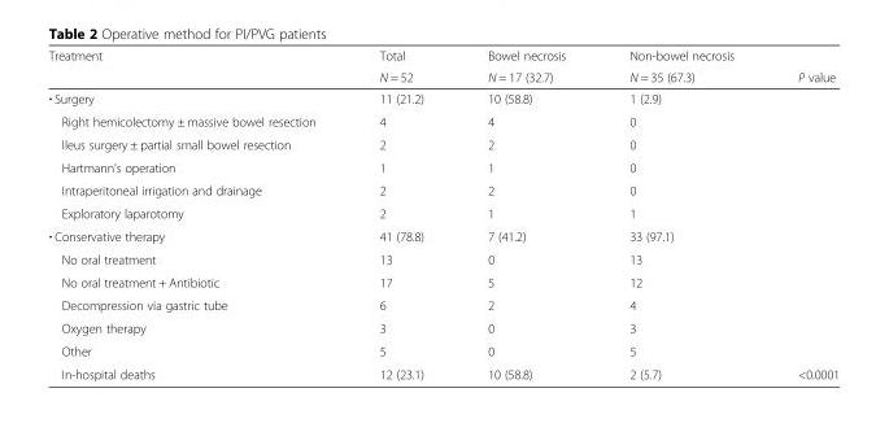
<table><thead><tr><td rowspan="2">Treatment</td><td rowspan="2">Total N = 52</td><td rowspan="2">Bowel necrosis N = 17 (32.7)</td><td rowspan="2">Non-bowel necrosis N = 35 (67.3)</td><td rowspan="2">P value</td></tr><tr></tr></thead><tbody><tr><td>∙ Surgery</td><td>11 (21.2)</td><td>10 (58.8)</td><td>1 (2.9)</td><td></td></tr><tr><td>Right hemicolectomy ± massive bowel resection</td><td>4</td><td>4</td><td>0</td><td></td></tr><tr><td>Ileus surgery ± partial small bowel resection</td><td>2</td><td>2</td><td>0</td><td></td></tr><tr><td>Hartmann’s operation</td><td>1</td><td>1</td><td>0</td><td></td></tr><tr><td>Intraperitoneal irrigation and drainage</td><td>2</td><td>2</td><td>0</td><td></td></tr><tr><td>Exploratory laparotomy</td><td>2</td><td>1</td><td>1</td><td></td></tr><tr><td>∙ Conservative therapy</td><td>41 (78.8)</td><td>7 (41.2)</td><td>33 (97.1)</td><td></td></tr><tr><td>No oral treatment</td><td>13</td><td>0</td><td>13</td><td></td></tr><tr><td>No oral treatment + Antibiotic</td><td>17</td><td>5</td><td>12</td><td></td></tr><tr><td>Decompression via gastric tube</td><td>6</td><td>2</td><td>4</td><td></td></tr><tr><td>Oxygen therapy</td><td>3</td><td>0</td><td>3</td><td></td></tr><tr><td>Other</td><td>5</td><td>0</td><td>5</td><td></td></tr><tr><td>In-hospital deaths</td><td>12 (23.1)</td><td>10 (58.8)</td><td>2 (5.7)</td><td>&lt;0.0001</td></tr></tbody></table>